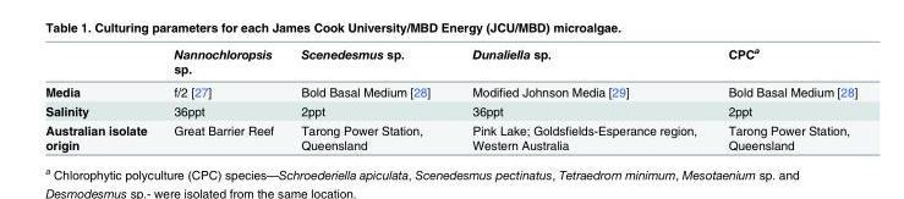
<table><thead><tr><td></td><td>Nannochloropsis sp.</td><td>Scenedesmus sp.</td><td>Dunaliella sp.</td><td>CPC<sup>a</sup></td></tr></thead><tbody><tr><td>Media</td><td>f/2 [27]</td><td>Bold Basal Medium [28]</td><td>Modified Johnson Media [29]</td><td>Bold Basal Medium [28]</td></tr><tr><td>Salinity</td><td>36ppt</td><td>2ppt</td><td>36ppt</td><td>2ppt</td></tr><tr><td>Australian isolate origin</td><td>Great Barrier Reef</td><td>Tarong Power Station, Queensland</td><td>Pink Lake; Goldsfields-Esperance region, Western Australia</td><td>Tarong Power Station, Queensland</td></tr></tbody></table>